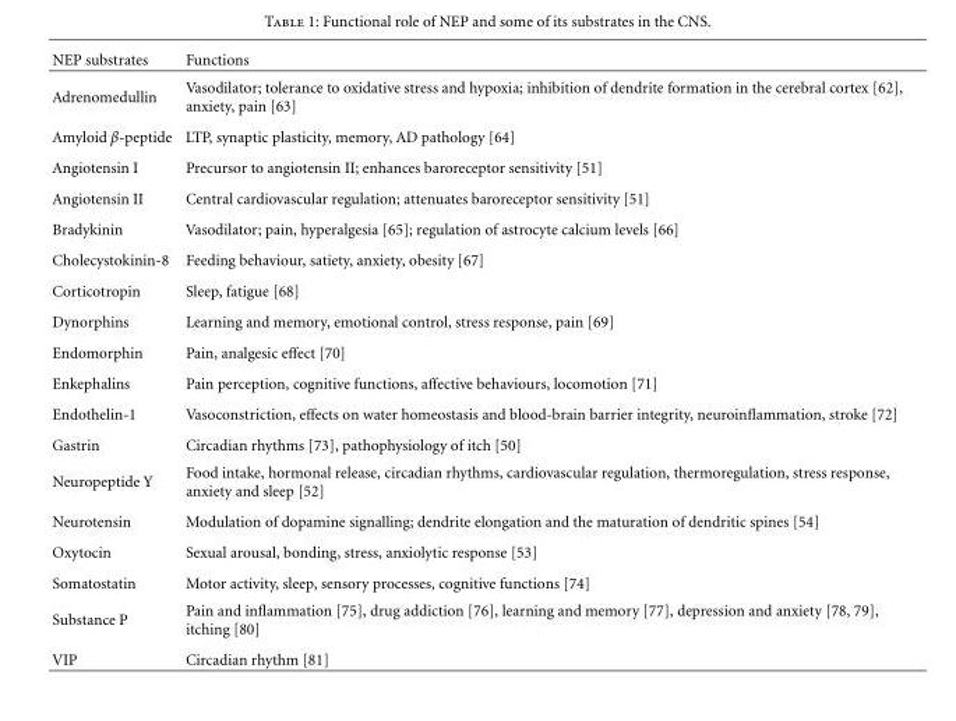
<table><thead><tr><td>NEP substrates</td><td>Functions</td></tr></thead><tbody><tr><td>Adrenomedullin</td><td>Vasodilator; tolerance to oxidative stress and hypoxia; inhibition of dendrite formation in the cerebral cortex [62], anxiety, pain [63]</td></tr><tr><td>Amyloid β-peptide</td><td>LTP, synaptic plasticity, memory, AD pathology [64]</td></tr><tr><td>Angiotensin I</td><td>Precursor to angiotensin II; enhances baroreceptor sensitivity [51]</td></tr><tr><td>Angiotensin II</td><td>Central cardiovascular regulation; attenuates baroreceptor sensitivity [51]</td></tr><tr><td>Bradykinin</td><td>Vasodilator; pain, hyperalgesia [65]; regulation of astrocyte calcium levels [66]</td></tr><tr><td>Cholecystokinin-8</td><td>Feeding behaviour, satiety, anxiety, obesity [67]</td></tr><tr><td>Corticotropin</td><td>Sleep, fatigue [68]</td></tr><tr><td>Dynorphins</td><td>Learning and memory, emotional control, stress response, pain [69]</td></tr><tr><td>Endomorphin</td><td>Pain, analgesic effect [70]</td></tr><tr><td>Enkephalins</td><td>Pain perception, cognitive functions, affective behaviours, locomotion [71]</td></tr><tr><td>Endothelin-1</td><td>Vasoconstriction, effects on water homeostasis and blood-brain barrier integrity, neuroinflammation, stroke [72]</td></tr><tr><td>Gastrin</td><td>Circadian rhythms [73], pathophysiology of itch [50]</td></tr><tr><td>Neuropeptide Y</td><td>Food intake, hormonal release, circadian rhythms, cardiovascular regulation, thermoregulation, stress response, anxiety and sleep [52]</td></tr><tr><td>Neurotensin</td><td>Modulation of dopamine signalling; dendrite elongation and the maturation of dendritic spines [54]</td></tr><tr><td>Oxytocin</td><td>Sexual arousal, bonding, stress, anxiolytic response [53]</td></tr><tr><td>Somatostatin</td><td>Motor activity, sleep, sensory processes, cognitive functions [74]</td></tr><tr><td>Substance P</td><td>Pain and inflammation [75], drug addiction [76], learning and memory [77], depression and anxiety [78, 79], itching [80]</td></tr><tr><td>VIP</td><td>Circadian rhythm [81]</td></tr></tbody></table>